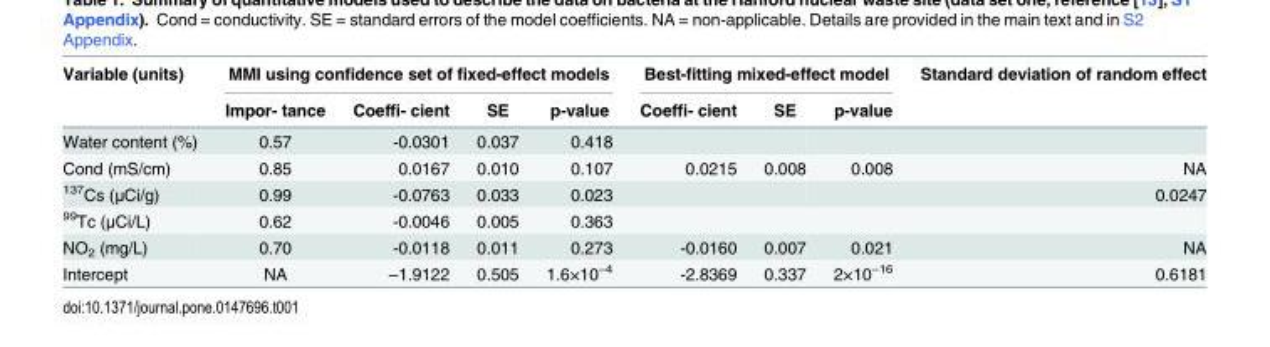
<table><thead><tr><td rowspan="2">Variable (units)</td><td colspan="4">MMI using confidence set of fixed-effect models</td><td colspan="3">Best-fitting mixed-effect model</td><td rowspan="2">Standard deviation of random effect</td></tr><tr><td>Impor- tance</td><td>Coeffi- cient</td><td>SE</td><td>p-value</td><td>Coeffi- cient</td><td>SE</td><td>p-value</td></tr></thead><tbody><tr><td>Water content (%)</td><td>0.57</td><td>-0.0301</td><td>0.037</td><td>0.418</td><td></td><td></td><td></td><td></td></tr><tr><td>Cond (mS/cm)</td><td>0.85</td><td>0.0167</td><td>0.010</td><td>0.107</td><td>0.0215</td><td>0.008</td><td>0.008</td><td>NA</td></tr><tr><td><sup>137</sup>Cs (μCi/g)</td><td>0.99</td><td>-0.0763</td><td>0.033</td><td>0.023</td><td></td><td></td><td></td><td>0.0247</td></tr><tr><td><sup>99</sup>Tc (μCi/L)</td><td>0.62</td><td>-0.0046</td><td>0.005</td><td>0.363</td><td></td><td></td><td></td><td></td></tr><tr><td>NO<sub>2</sub> (mg/L)</td><td>0.70</td><td>-0.0118</td><td>0.011</td><td>0.273</td><td>-0.0160</td><td>0.007</td><td>0.021</td><td>NA</td></tr><tr><td>Intercept</td><td>NA</td><td>–1.9122</td><td>0.505</td><td>1.6×10<sup>−4</sup></td><td>-2.8369</td><td>0.337</td><td>2×10<sup>−16</sup></td><td>0.6181</td></tr></tbody></table>